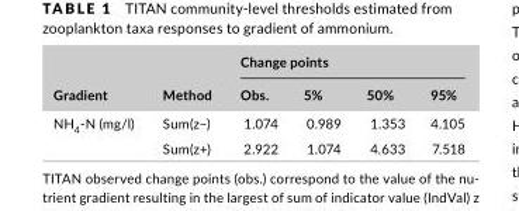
<table><thead><tr><td rowspan="2">Gradient</td><td rowspan="2">Method</td><td colspan="4">Change points</td></tr><tr><td>Obs.</td><td>5%</td><td>50%</td><td>95%</td></tr></thead><tbody><tr><td rowspan="2">NH<sub>4</sub>- N (mg/l)</td><td>Sum(z−)</td><td>1.074</td><td>0.989</td><td>1.353</td><td>4.105</td></tr><tr><td>Sum(z+)</td><td>2.922</td><td>1.074</td><td>4.633</td><td>7.518</td></tr></tbody></table>